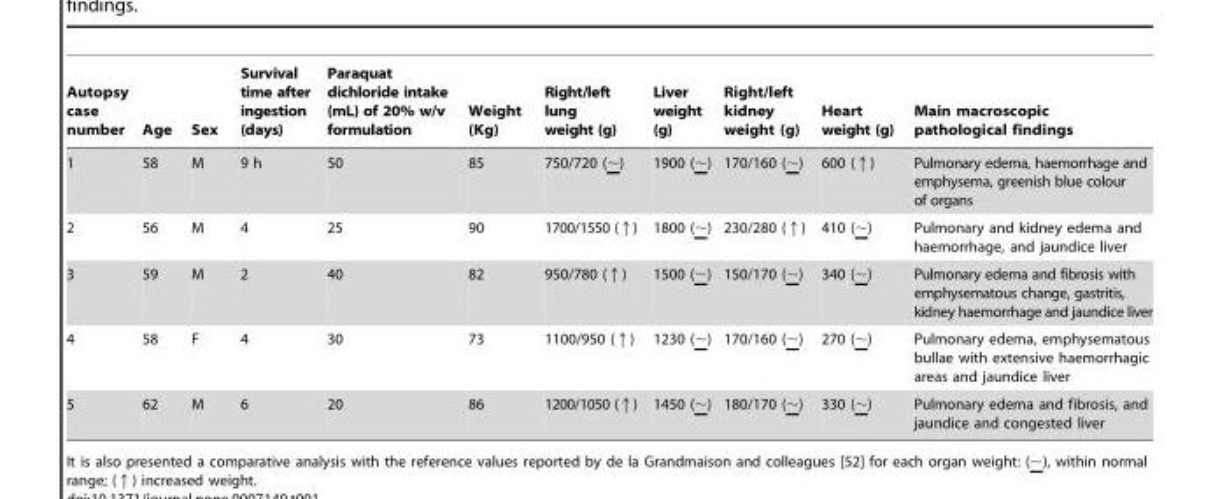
<table><thead><tr><td>Autopsy case number</td><td>Age</td><td>Sex</td><td>Survival time after ingestion (days)</td><td>Paraquat dichloride intake (mL) of 20% w/v formulation</td><td>Weight (Kg)</td><td>Right/left lung weight (g)</td><td>Liver weight (g)</td><td>Right/left kidney weight (g)</td><td>Heart weight (g)</td><td>Main macroscopic pathological findings</td></tr></thead><tbody><tr><td>1</td><td>58</td><td>M</td><td>9 h</td><td>50</td><td>85</td><td>750/720 (∼)</td><td>1900 (∼)</td><td>170/160 (∼)</td><td>600 (↑)</td><td>Pulmonary edema, haemorrhage and emphysema, greenish blue colour of organs</td></tr><tr><td>2</td><td>56</td><td>M</td><td>4</td><td>25</td><td>90</td><td>1700/1550 (↑)</td><td>1800 (∼)</td><td>230/280 (↑)</td><td>410 (∼)</td><td>Pulmonary and kidney edema and haemorrhage, and jaundice liver</td></tr><tr><td>3</td><td>59</td><td>M</td><td>2</td><td>40</td><td>82</td><td>950/780 (↑)</td><td>1500 (∼)</td><td>150/170 (∼)</td><td>340 (∼)</td><td>Pulmonary edema and fibrosis with emphysematous change, gastritis, kidney haemorrhage and jaundice liver</td></tr><tr><td>4</td><td>58</td><td>F</td><td>4</td><td>30</td><td>73</td><td>1100/950 (↑)</td><td>1230 (∼)</td><td>170/160 (∼)</td><td>270 (∼)</td><td>Pulmonary edema, emphysematous bullae with extensive haemorrhagic areas and jaundice liver</td></tr><tr><td>5</td><td>62</td><td>M</td><td>6</td><td>20</td><td>86</td><td>1200/1050 (↑)</td><td>1450 (∼)</td><td>180/170 (∼)</td><td>330 (∼)</td><td>Pulmonary edema and fibrosis, and jaundice and congested liver</td></tr></tbody></table>